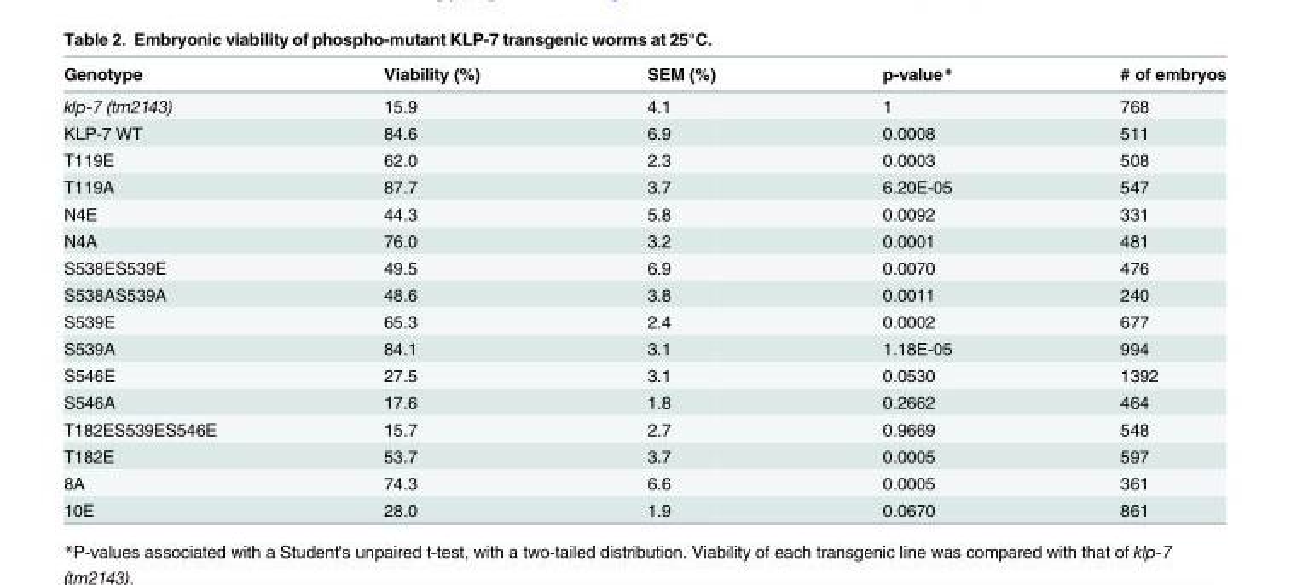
<table><thead><tr><td>Genotype</td><td>Viability (%)</td><td>SEM (%)</td><td>p-value*</td><td># of embryos</td></tr></thead><tbody><tr><td>klp-7 (tm2143)</td><td>15.9</td><td>4.1</td><td>1</td><td>768</td></tr><tr><td>KLP-7 WT</td><td>84.6</td><td>6.9</td><td>0.0008</td><td>511</td></tr><tr><td>T119E</td><td>62.0</td><td>2.3</td><td>0.0003</td><td>508</td></tr><tr><td>T119A</td><td>87.7</td><td>3.7</td><td>6.20E-05</td><td>547</td></tr><tr><td>N4E</td><td>44.3</td><td>5.8</td><td>0.0092</td><td>331</td></tr><tr><td>N4A</td><td>76.0</td><td>3.2</td><td>0.0001</td><td>481</td></tr><tr><td>S538ES539E</td><td>49.5</td><td>6.9</td><td>0.0070</td><td>476</td></tr><tr><td>S538AS539A</td><td>48.6</td><td>3.8</td><td>0.0011</td><td>240</td></tr><tr><td>S539E</td><td>65.3</td><td>2.4</td><td>0.0002</td><td>677</td></tr><tr><td>S539A</td><td>84.1</td><td>3.1</td><td>1.18E-05</td><td>994</td></tr><tr><td>S546E</td><td>27.5</td><td>3.1</td><td>0.0530</td><td>1392</td></tr><tr><td>S546A</td><td>17.6</td><td>1.8</td><td>0.2662</td><td>464</td></tr><tr><td>T182ES539ES546E</td><td>15.7</td><td>2.7</td><td>0.9669</td><td>548</td></tr><tr><td>T182E</td><td>53.7</td><td>3.7</td><td>0.0005</td><td>597</td></tr><tr><td>8A</td><td>74.3</td><td>6.6</td><td>0.0005</td><td>361</td></tr><tr><td>10E</td><td>28.0</td><td>1.9</td><td>0.0670</td><td>861</td></tr></tbody></table>